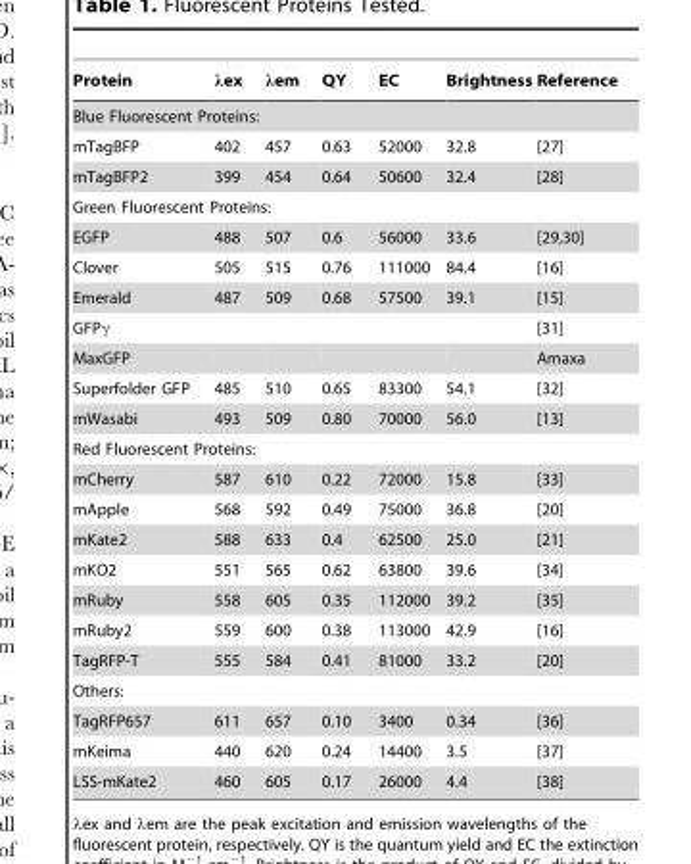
<table><thead><tr><td>Protein</td><td>λex</td><td>λem</td><td>QY</td><td>EC</td><td>Brightness</td><td>Reference</td></tr></thead><tbody><tr><td colspan="7">Blue Fluorescent Proteins:</td></tr><tr><td>mTagBFP</td><td>402</td><td>457</td><td>0.63</td><td>52000</td><td>32.8</td><td>[27]</td></tr><tr><td>mTagBFP2</td><td>399</td><td>454</td><td>0.64</td><td>50600</td><td>32.4</td><td>[28]</td></tr><tr><td colspan="7">Green Fluorescent Proteins:</td></tr><tr><td>EGFP</td><td>488</td><td>507</td><td>0.6</td><td>56000</td><td>33.6</td><td>[29,30]</td></tr><tr><td>Clover</td><td>505</td><td>515</td><td>0.76</td><td>111000</td><td>84.4</td><td>[16]</td></tr><tr><td>Emerald</td><td>487</td><td>509</td><td>0.68</td><td>57500</td><td>39.1</td><td>[15]</td></tr><tr><td>GFPγ</td><td></td><td></td><td></td><td></td><td></td><td>[31]</td></tr><tr><td>MaxGFP</td><td></td><td></td><td></td><td></td><td></td><td>Amaxa</td></tr><tr><td>Superfolder GFP</td><td>485</td><td>510</td><td>0.65</td><td>83300</td><td>54.1</td><td>[32]</td></tr><tr><td>mWasabi</td><td>493</td><td>509</td><td>0.80</td><td>70000</td><td>56.0</td><td>[13]</td></tr><tr><td colspan="7">Red Fluorescent Proteins:</td></tr><tr><td>mCherry</td><td>587</td><td>610</td><td>0.22</td><td>72000</td><td>15.8</td><td>[33]</td></tr><tr><td>mApple</td><td>568</td><td>592</td><td>0.49</td><td>75000</td><td>36.8</td><td>[20]</td></tr><tr><td>mKate2</td><td>588</td><td>633</td><td>0.4</td><td>62500</td><td>25.0</td><td>[21]</td></tr><tr><td>mKO2</td><td>551</td><td>565</td><td>0.62</td><td>63800</td><td>39.6</td><td>[34]</td></tr><tr><td>mRuby</td><td>558</td><td>605</td><td>0.35</td><td>112000</td><td>39.2</td><td>[35]</td></tr><tr><td>mRuby2</td><td>559</td><td>600</td><td>0.38</td><td>113000</td><td>42.9</td><td>[16]</td></tr><tr><td>TagRFP-T</td><td>555</td><td>584</td><td>0.41</td><td>81000</td><td>33.2</td><td>[20]</td></tr><tr><td colspan="7">Others:</td></tr><tr><td>TagRFP657</td><td>611</td><td>657</td><td>0.10</td><td>3400</td><td>0.34</td><td>[36]</td></tr><tr><td>mKeima</td><td>440</td><td>620</td><td>0.24</td><td>14400</td><td>3.5</td><td>[37]</td></tr><tr><td>LSS-mKate2</td><td>460</td><td>605</td><td>0.17</td><td>26000</td><td>4.4</td><td>[38]</td></tr></tbody></table>